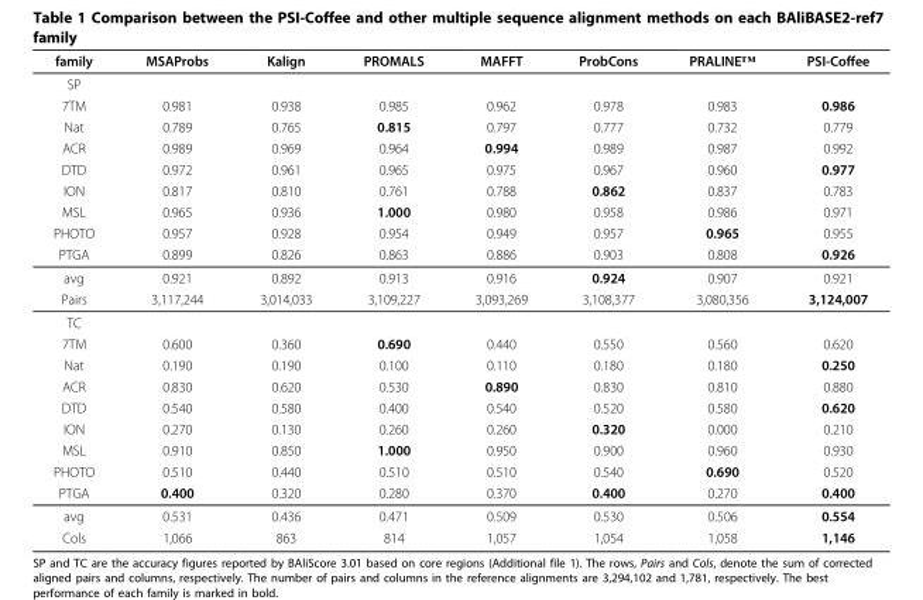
<table><thead><tr><td>family</td><td>MSAProbs</td><td>Kalign</td><td>PROMALS</td><td>MAFFT</td><td>ProbCons</td><td>PRALINE™</td><td>PSI-Coffee</td></tr></thead><tbody><tr><td colspan="8">SP</td></tr><tr><td>7TM</td><td>0.981</td><td>0.938</td><td>0.985</td><td>0.962</td><td>0.978</td><td>0.983</td><td>0.986</td></tr><tr><td>Nat</td><td>0.789</td><td>0.765</td><td>0.815</td><td>0.797</td><td>0.777</td><td>0.732</td><td>0.779</td></tr><tr><td>ACR</td><td>0.989</td><td>0.969</td><td>0.964</td><td>0.994</td><td>0.989</td><td>0.987</td><td>0.992</td></tr><tr><td>DTD</td><td>0.972</td><td>0.961</td><td>0.965</td><td>0.975</td><td>0.967</td><td>0.960</td><td>0.977</td></tr><tr><td>ION</td><td>0.817</td><td>0.810</td><td>0.761</td><td>0.788</td><td>0.862</td><td>0.837</td><td>0.783</td></tr><tr><td>MSL</td><td>0.965</td><td>0.936</td><td>1.000</td><td>0.980</td><td>0.958</td><td>0.986</td><td>0.971</td></tr><tr><td>PHOTO</td><td>0.957</td><td>0.928</td><td>0.954</td><td>0.949</td><td>0.957</td><td>0.965</td><td>0.955</td></tr><tr><td>PTGA</td><td>0.899</td><td>0.826</td><td>0.863</td><td>0.886</td><td>0.903</td><td>0.808</td><td>0.926</td></tr><tr><td>avg</td><td>0.921</td><td>0.892</td><td>0.913</td><td>0.916</td><td>0.924</td><td>0.907</td><td>0.921</td></tr><tr><td>Pairs</td><td>3,117,244</td><td>3,014,033</td><td>3,109,227</td><td>3,093,269</td><td>3,108,377</td><td>3,080,356</td><td>3,124,007</td></tr><tr><td colspan="8">TC</td></tr><tr><td>7TM</td><td>0.600</td><td>0.360</td><td>0.690</td><td>0.440</td><td>0.550</td><td>0.560</td><td>0.620</td></tr><tr><td>Nat</td><td>0.190</td><td>0.190</td><td>0.100</td><td>0.110</td><td>0.180</td><td>0.180</td><td>0.250</td></tr><tr><td>ACR</td><td>0.830</td><td>0.620</td><td>0.530</td><td>0.890</td><td>0.830</td><td>0.810</td><td>0.880</td></tr><tr><td>DTD</td><td>0.540</td><td>0.580</td><td>0.400</td><td>0.540</td><td>0.520</td><td>0.580</td><td>0.620</td></tr><tr><td>ION</td><td>0.270</td><td>0.130</td><td>0.260</td><td>0.260</td><td>0.320</td><td>0.000</td><td>0.210</td></tr><tr><td>MSL</td><td>0.910</td><td>0.850</td><td>1.000</td><td>0.950</td><td>0.900</td><td>0.960</td><td>0.930</td></tr><tr><td>PHOTO</td><td>0.510</td><td>0.440</td><td>0.510</td><td>0.510</td><td>0.540</td><td>0.690</td><td>0.520</td></tr><tr><td>PTGA</td><td>0.400</td><td>0.320</td><td>0.280</td><td>0.370</td><td>0.400</td><td>0.270</td><td>0.400</td></tr><tr><td>avg</td><td>0.531</td><td>0.436</td><td>0.471</td><td>0.509</td><td>0.530</td><td>0.506</td><td>0.554</td></tr><tr><td>Cols</td><td>1,066</td><td>863</td><td>814</td><td>1,057</td><td>1,054</td><td>1,058</td><td>1,146</td></tr></tbody></table>